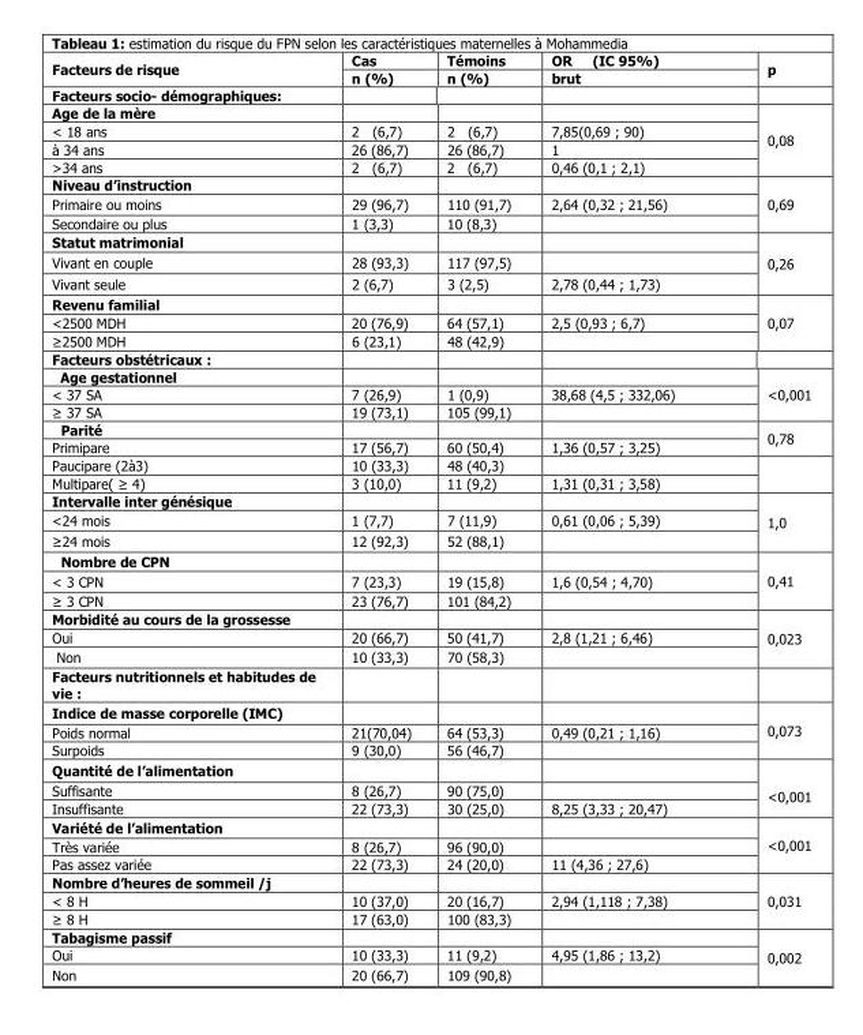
<table><thead><tr><td rowspan="2">Facteurs de risque</td><td rowspan="2">Cas n (%)</td><td rowspan="2">Témoins n (%)</td><td rowspan="2">OR (IC 95%) brut</td><td rowspan="2">p</td></tr><tr></tr></thead><tbody><tr><td colspan="5">Facteurs socio- démographiques:</td></tr><tr><td colspan="4">Age de la mère</td><td rowspan="4">0,08</td></tr><tr><td>&lt; 18 ans</td><td>2 (6,7)</td><td>2 (6,7)</td><td>7,85(0,69 ; 90)</td></tr><tr><td>à 34 ans</td><td>26 (86,7)</td><td>26 (86,7)</td><td>1</td></tr><tr><td>&gt;34 ans</td><td>2 (6,7)</td><td>2 (6,7)</td><td>0,46 (0,1 ; 2,1)</td></tr><tr><td colspan="4">Niveau d’instruction</td><td rowspan="3">0,69</td></tr><tr><td>Primaire ou moins</td><td>29 (96,7)</td><td>110 (91,7)</td><td>2,64 (0,32 ; 21,56)</td></tr><tr><td>Secondaire ou plus</td><td>1 (3,3)</td><td>10 (8,3)</td><td></td></tr><tr><td colspan="4">Statut matrimonial</td><td rowspan="3">0,26</td></tr><tr><td>Vivant en couple</td><td>28 (93,3)</td><td>117 (97,5)</td><td></td></tr><tr><td>Vivant seule</td><td>2 (6,7)</td><td>3 (2,5)</td><td>2,78 (0,44 ; 1,73)</td></tr><tr><td colspan="4">Revenu familial</td><td rowspan="3">0,07</td></tr><tr><td>&lt;2500 MDH</td><td>20 (76,9)</td><td>64 (57,1)</td><td>2,5 (0,93 ; 6,7)</td></tr><tr><td>≥2500 MDH</td><td>6 (23,1)</td><td>48 (42,9)</td><td></td></tr><tr><td colspan="5">Facteurs obstétricaux :</td></tr><tr><td colspan="4">Age gestationnel</td><td rowspan="3">&lt;0,001</td></tr><tr><td>&lt; 37 SA</td><td>7 (26,9)</td><td>1 (0,9)</td><td>38,68 (4,5 ; 332,06)</td></tr><tr><td>≥ 37 SA</td><td>19 (73,1)</td><td>105 (99,1)</td><td></td></tr><tr><td colspan="4">Parité</td><td rowspan="2">0,78</td></tr><tr><td>Primipare</td><td>17 (56,7)</td><td>60 (50,4)</td><td>1,36 (0,57 ; 3,25)</td></tr><tr><td>Paucipare (2à3)</td><td>10 (33,3)</td><td>48 (40,3)</td><td></td><td rowspan="2"></td></tr><tr><td>Multipare( ≥ 4)</td><td>3 (10,0)</td><td>11 (9,2)</td><td>1,31 (0,31 ; 3,58)</td></tr><tr><td colspan="4">Intervalle inter génésique</td><td rowspan="3">1,0</td></tr><tr><td>&lt;24 mois</td><td>1 (7,7)</td><td>7 (11,9)</td><td>0,61 (0,06 ; 5,39)</td></tr><tr><td>≥24 mois</td><td>12 (92,3)</td><td>52 (88,1)</td><td></td></tr><tr><td colspan="4">Nombre de CPN</td><td rowspan="3">0,41</td></tr><tr><td>&lt; 3 CPN</td><td>7 (23,3)</td><td>19 (15,8)</td><td>1,6 (0,54 ; 4,70)</td></tr><tr><td>≥ 3 CPN</td><td>23 (76,7)</td><td>101 (84,2)</td><td></td></tr><tr><td colspan="4">Morbidité au cours de la grossesse</td><td rowspan="3">0,023</td></tr><tr><td>Oui</td><td>20 (66,7)</td><td>50 (41,7)</td><td>2,8 (1,21 ; 6,46)</td></tr><tr><td>Non</td><td>10 (33,3)</td><td>70 (58,3)</td><td></td></tr><tr><td colspan="5">Facteurs nutritionnels et habitudes de vie :</td></tr><tr><td colspan="4">Indice de masse corporelle (IMC)</td><td rowspan="3">0,073</td></tr><tr><td>Poids normal</td><td>21(70,04)</td><td>64 (53,3)</td><td>0,49 (0,21 ; 1,16)</td></tr><tr><td>Surpoids</td><td>9 (30,0)</td><td>56 (46,7)</td><td></td></tr><tr><td colspan="4">Quantité de l’alimentation</td><td rowspan="3">&lt;0,001</td></tr><tr><td>Suffisante</td><td>8 (26,7)</td><td>90 (75,0)</td><td></td></tr><tr><td>Insuffisante</td><td>22 (73,3)</td><td>30 (25,0)</td><td>8,25 (3,33 ; 20,47)</td></tr><tr><td colspan="4">Variété de l’alimentation</td><td rowspan="3">&lt;0,001</td></tr><tr><td>Très variée</td><td>8 (26,7)</td><td>96 (90,0)</td><td></td></tr><tr><td>Pas assez variée</td><td>22 (73,3)</td><td>24 (20,0)</td><td>11 (4,36 ; 27,6)</td></tr><tr><td colspan="4">Nombre d’heures de sommeil /j</td><td rowspan="3">0,031</td></tr><tr><td>&lt; 8 H</td><td>10 (37,0)</td><td>20 (16,7)</td><td>2,94 (1,118 ; 7,38)</td></tr><tr><td>≥ 8 H</td><td>17 (63,0)</td><td>100 (83,3)</td><td></td></tr><tr><td colspan="4">Tabagisme passif</td><td rowspan="3">0,002</td></tr><tr><td>Oui</td><td>10 (33,3)</td><td>11 (9,2)</td><td>4,95 (1,86 ; 13,2)</td></tr><tr><td>Non</td><td>20 (66,7)</td><td>109 (90,8)</td><td></td></tr></tbody></table>